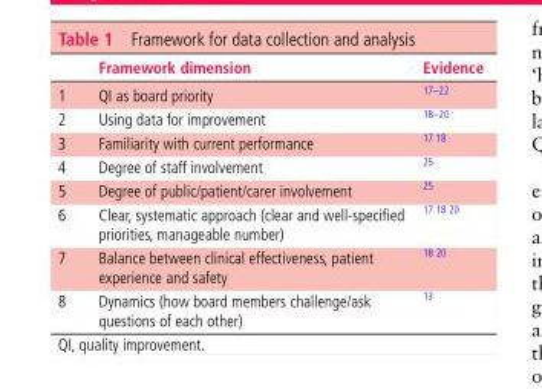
<table><thead><tr><td></td><td>Framework dimension</td><td>Evidence</td></tr></thead><tbody><tr><td>1</td><td>QI as board priority</td><td>17–22</td></tr><tr><td>2</td><td>Using data for improvement</td><td>18–20</td></tr><tr><td>3</td><td>Familiarity with current performance</td><td>17 18</td></tr><tr><td>4</td><td>Degree of staff involvement</td><td>25</td></tr><tr><td>5</td><td>Degree of public/patient/carer involvement</td><td>25</td></tr><tr><td>6</td><td>Clear, systematic approach (clear and well-specified priorities, manageable number)</td><td>17 18 20</td></tr><tr><td>7</td><td>Balance between clinical effectiveness, patient experience and safety</td><td>18 20</td></tr><tr><td>8</td><td>Dynamics (how board members challenge/ask questions of each other)</td><td>13</td></tr></tbody></table>